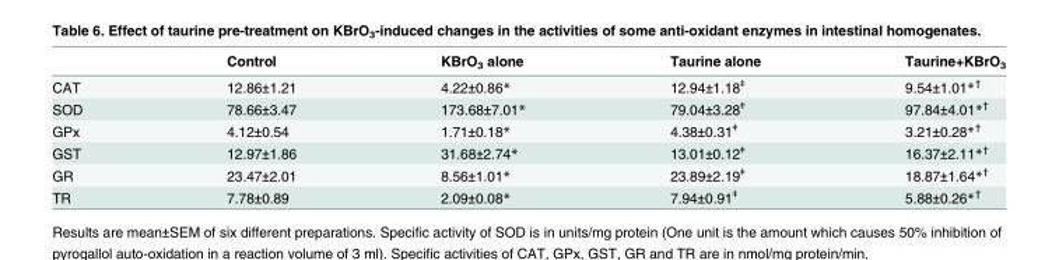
<table><thead><tr><td></td><td>Control</td><td>KBrO<sub>3</sub> alone</td><td>Taurine alone</td><td>Taurine+KBrO<sub>3</sub></td></tr></thead><tbody><tr><td>CAT</td><td>12.86±1.21</td><td>4.22±0.86*</td><td>12.94±1.18<sup>ǂ</sup></td><td>9.54±1.01*<sup>†</sup></td></tr><tr><td>SOD</td><td>78.66±3.47</td><td>173.68±7.01*</td><td>79.04±3.28<sup>ǂ</sup></td><td>97.84±4.01*<sup>†</sup></td></tr><tr><td>GPx</td><td>4.12±0.54</td><td>1.71±0.18*</td><td>4.38±0.31<sup>ǂ</sup></td><td>3.21±0.28*<sup>†</sup></td></tr><tr><td>GST</td><td>12.97±1.86</td><td>31.68±2.74*</td><td>13.01±0.12<sup>ǂ</sup></td><td>16.37±2.11*<sup>†</sup></td></tr><tr><td>GR</td><td>23.47±2.01</td><td>8.56±1.01*</td><td>23.89±2.19<sup>ǂ</sup></td><td>18.87±1.64*<sup>†</sup></td></tr><tr><td>TR</td><td>7.78±0.89</td><td>2.09±0.08*</td><td>7.94±0.91<sup>ǂ</sup></td><td>5.88±0.26*<sup>†</sup></td></tr></tbody></table>